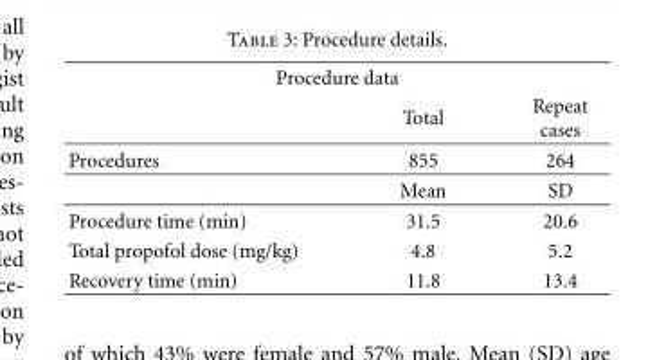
<table><thead><tr><td colspan="3">Procedure data</td></tr><tr><td></td><td>Total</td><td>Repeat cases</td></tr></thead><tbody><tr><td rowspan="2">Procedures</td><td>855</td><td>264</td></tr><tr><td>Mean</td><td>SD</td></tr><tr><td>Procedure time (min)</td><td>31.5</td><td>20.6</td></tr><tr><td>Total propofol dose (mg/kg)</td><td>4.8</td><td>5.2</td></tr><tr><td>Recovery time (min)</td><td>11.8</td><td>13.4</td></tr></tbody></table>